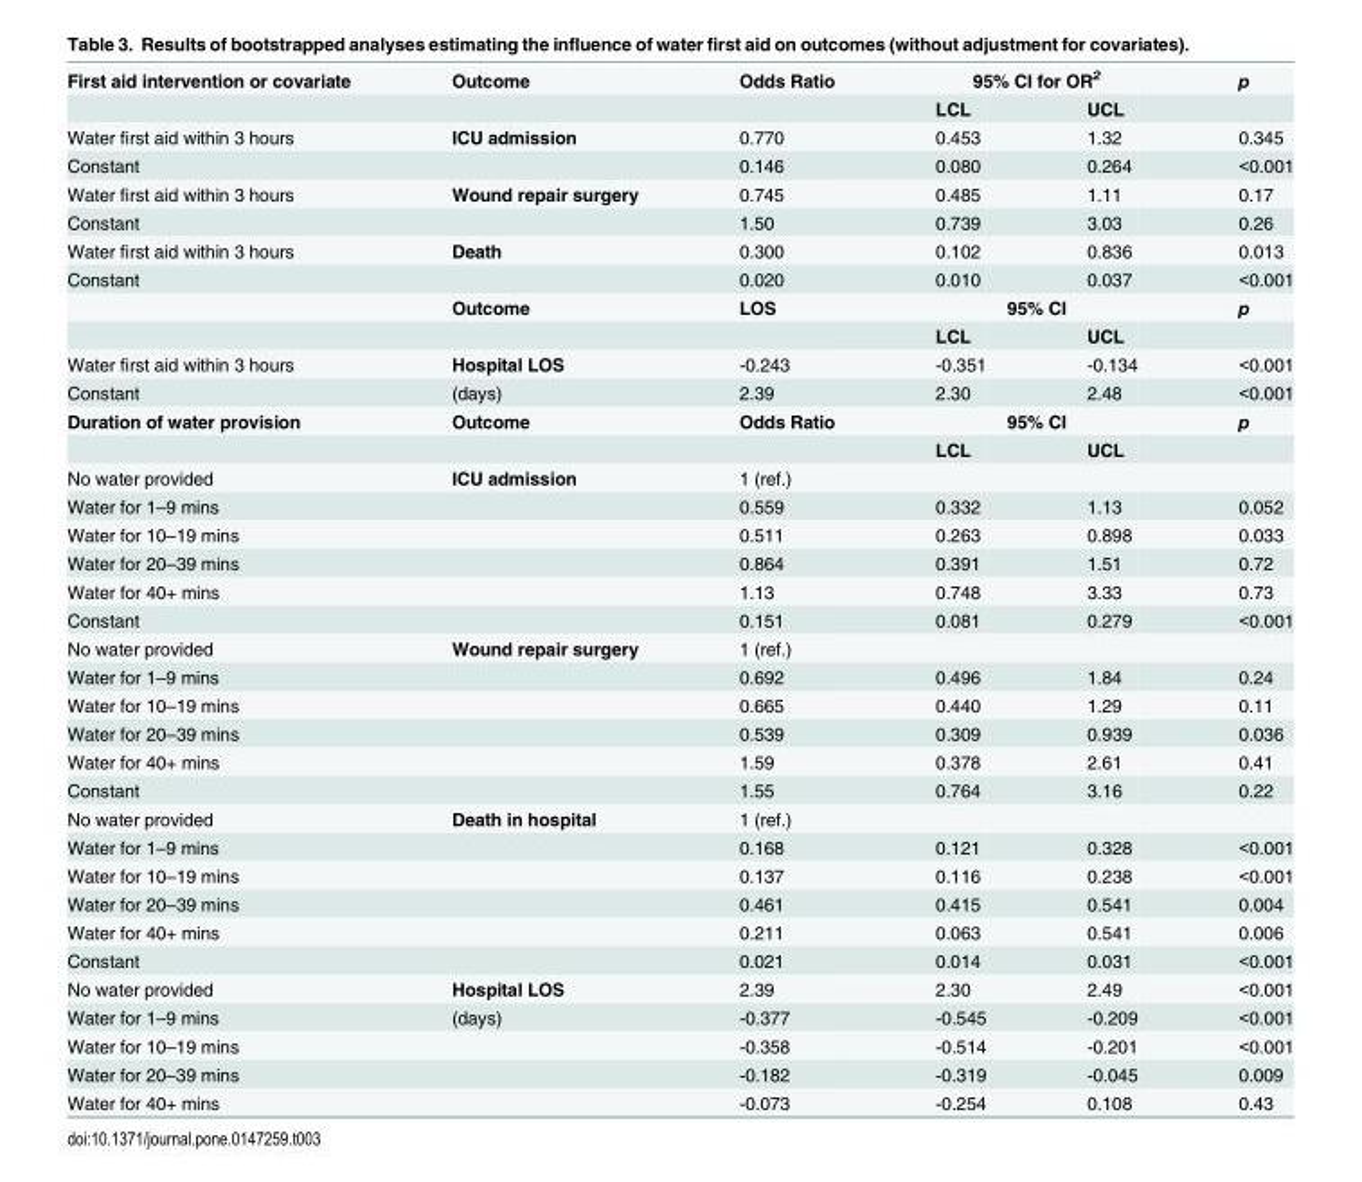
<table><tbody><tr><td rowspan="2">First aid intervention or covariate</td><td>Outcome</td><td>Odds Ratio</td><td colspan="2">95% CI for OR<sup>2</sup></td><td>p</td></tr><tr><td></td><td></td><td>LCL</td><td>UCL</td><td></td></tr><tr><td>Water first aid within 3 hours</td><td>ICU admission</td><td>0.770</td><td>0.453</td><td>1.32</td><td>0.345</td></tr><tr><td>Constant</td><td></td><td>0.146</td><td>0.080</td><td>0.264</td><td>&lt;0.001</td></tr><tr><td>Water first aid within 3 hours</td><td>Wound repair surgery</td><td>0.745</td><td>0.485</td><td>1.11</td><td>0.17</td></tr><tr><td>Constant</td><td></td><td>1.50</td><td>0.739</td><td>3.03</td><td>0.26</td></tr><tr><td>Water first aid within 3 hours</td><td>Death</td><td>0.300</td><td>0.102</td><td>0.836</td><td>0.013</td></tr><tr><td rowspan="3">Constant</td><td></td><td>0.020</td><td>0.010</td><td>0.037</td><td>&lt;0.001</td></tr><tr><td>Outcome</td><td>LOS</td><td colspan="2">95% CI</td><td>p</td></tr><tr><td></td><td></td><td>LCL</td><td>UCL</td><td></td></tr><tr><td>Water first aid within 3 hours</td><td>Hospital LOS</td><td>-0.243</td><td>-0.351</td><td>-0.134</td><td>&lt;0.001</td></tr><tr><td>Constant</td><td>(days)</td><td>2.39</td><td>2.30</td><td>2.48</td><td>&lt;0.001</td></tr><tr><td rowspan="2">Duration of water provision</td><td>Outcome</td><td>Odds Ratio</td><td colspan="2">95% CI</td><td>p</td></tr><tr><td></td><td></td><td>LCL</td><td>UCL</td><td></td></tr><tr><td>No water provided</td><td>ICU admission</td><td colspan="4">1 (ref.)</td></tr><tr><td>Water for 1–9 mins</td><td></td><td>0.559</td><td>0.332</td><td>1.13</td><td>0.052</td></tr><tr><td>Water for 10–19 mins</td><td></td><td>0.511</td><td>0.263</td><td>0.898</td><td>0.033</td></tr><tr><td>Water for 20–39 mins</td><td></td><td>0.864</td><td>0.391</td><td>1.51</td><td>0.72</td></tr><tr><td>Water for 40+ mins</td><td></td><td>1.13</td><td>0.748</td><td>3.33</td><td>0.73</td></tr><tr><td>Constant</td><td></td><td>0.151</td><td>0.081</td><td>0.279</td><td>&lt;0.001</td></tr><tr><td>No water provided</td><td>Wound repair surgery</td><td colspan="4">1 (ref.)</td></tr><tr><td>Water for 1–9 mins</td><td></td><td>0.692</td><td>0.496</td><td>1.84</td><td>0.24</td></tr><tr><td>Water for 10–19 mins</td><td></td><td>0.665</td><td>0.440</td><td>1.29</td><td>0.11</td></tr><tr><td>Water for 20–39 mins</td><td></td><td>0.539</td><td>0.309</td><td>0.939</td><td>0.036</td></tr><tr><td>Water for 40+ mins</td><td></td><td>1.59</td><td>0.378</td><td>2.61</td><td>0.41</td></tr><tr><td>Constant</td><td></td><td>1.55</td><td>0.764</td><td>3.16</td><td>0.22</td></tr><tr><td>No water provided</td><td>Death in hospital</td><td colspan="4">1 (ref.)</td></tr><tr><td>Water for 1–9 mins</td><td></td><td>0.168</td><td>0.121</td><td>0.328</td><td>&lt;0.001</td></tr><tr><td>Water for 10–19 mins</td><td></td><td>0.137</td><td>0.116</td><td>0.238</td><td>&lt;0.001</td></tr><tr><td>Water for 20–39 mins</td><td></td><td>0.461</td><td>0.415</td><td>0.541</td><td>0.004</td></tr><tr><td>Water for 40+ mins</td><td></td><td>0.211</td><td>0.063</td><td>0.541</td><td>0.006</td></tr><tr><td>Constant</td><td></td><td>0.021</td><td>0.014</td><td>0.031</td><td>&lt;0.001</td></tr><tr><td>No water provided</td><td>Hospital LOS</td><td>2.39</td><td>2.30</td><td>2.49</td><td>&lt;0.001</td></tr><tr><td>Water for 1–9 mins</td><td>(days)</td><td>-0.377</td><td>-0.545</td><td>-0.209</td><td>&lt;0.001</td></tr><tr><td>Water for 10–19 mins</td><td></td><td>-0.358</td><td>-0.514</td><td>-0.201</td><td>&lt;0.001</td></tr><tr><td>Water for 20–39 mins</td><td></td><td>-0.182</td><td>-0.319</td><td>-0.045</td><td>0.009</td></tr><tr><td>Water for 40+ mins</td><td></td><td>-0.073</td><td>-0.254</td><td>0.108</td><td>0.43</td></tr></tbody></table>